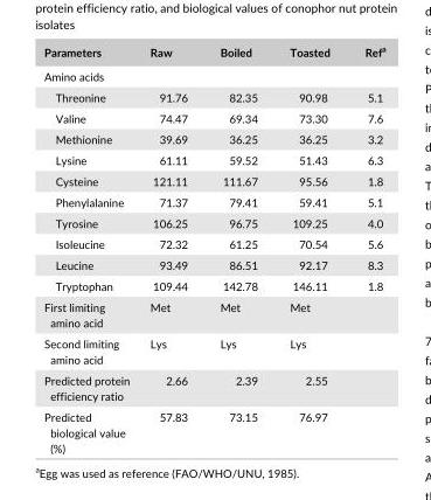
<table><thead><tr><td>Parameters</td><td>Raw</td><td>Boiled</td><td>Toasted</td><td>Ref<sup>a</sup></td></tr></thead><tbody><tr><td colspan="5">Amino acids</td></tr><tr><td>Threonine</td><td>91.76</td><td>82.35</td><td>90.98</td><td>5.1</td></tr><tr><td>Valine</td><td>74.47</td><td>69.34</td><td>73.30</td><td>7.6</td></tr><tr><td>Methionine</td><td>39.69</td><td>36.25</td><td>36.25</td><td>3.2</td></tr><tr><td>Lysine</td><td>61.11</td><td>59.52</td><td>51.43</td><td>6.3</td></tr><tr><td>Cysteine</td><td>121.11</td><td>111.67</td><td>95.56</td><td>1.8</td></tr><tr><td>Phenylalanine</td><td>71.37</td><td>79.41</td><td>59.41</td><td>5.1</td></tr><tr><td>Tyrosine</td><td>106.25</td><td>96.75</td><td>109.25</td><td>4.0</td></tr><tr><td>Isoleucine</td><td>72.32</td><td>61.25</td><td>70.54</td><td>5.6</td></tr><tr><td>Leucine</td><td>93.49</td><td>86.51</td><td>92.17</td><td>8.3</td></tr><tr><td>Tryptophan</td><td>109.44</td><td>142.78</td><td>146.11</td><td>1.8</td></tr><tr><td>First limiting amino acid</td><td>Met</td><td>Met</td><td>Met</td><td></td></tr><tr><td>Second limiting amino acid</td><td>Lys</td><td>Lys</td><td>Lys</td><td></td></tr><tr><td>Predicted protein efficiency ratio</td><td>2.66</td><td>2.39</td><td>2.55</td><td></td></tr><tr><td>Predicted biological value (%)</td><td>57.83</td><td>73.15</td><td>76.97</td><td></td></tr></tbody></table>